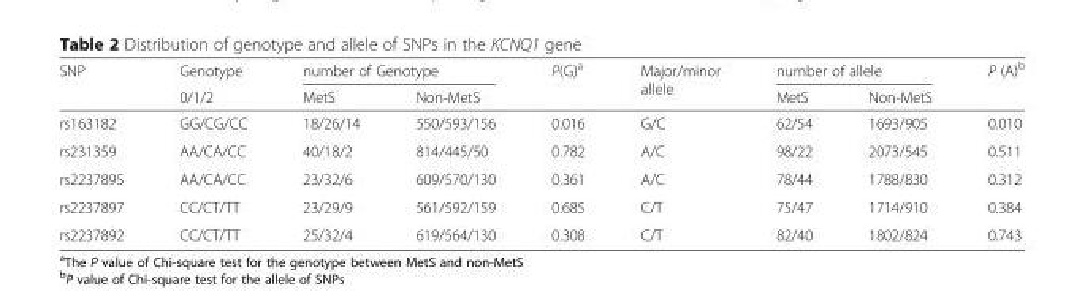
<table><thead><tr><td rowspan="2">SNP</td><td rowspan="2">Genotype 0/1/2</td><td colspan="2">number of Genotype</td><td rowspan="2">P(G)<sup>a</sup></td><td rowspan="2">Major/minor allele</td><td colspan="2">number of allele</td><td rowspan="2">P (A)<sup>b</sup></td></tr><tr><td>MetS</td><td>Non-MetS</td><td>MetS</td><td>Non-MetS</td></tr></thead><tbody><tr><td>rs163182</td><td>GG/CG/CC</td><td>18/26/14</td><td>550/593/156</td><td>0.016</td><td>G/C</td><td>62/54</td><td>1693/905</td><td>0.010</td></tr><tr><td>rs231359</td><td>AA/CA/CC</td><td>40/18/2</td><td>814/445/50</td><td>0.782</td><td>A/C</td><td>98/22</td><td>2073/545</td><td>0.511</td></tr><tr><td>rs2237895</td><td>AA/CA/CC</td><td>23/32/6</td><td>609/570/130</td><td>0.361</td><td>A/C</td><td>78/44</td><td>1788/830</td><td>0.312</td></tr><tr><td>rs2237897</td><td>CC/CT/TT</td><td>23/29/9</td><td>561/592/159</td><td>0.685</td><td>C/T</td><td>75/47</td><td>1714/910</td><td>0.384</td></tr><tr><td>rs2237892</td><td>CC/CT/TT</td><td>25/32/4</td><td>619/564/130</td><td>0.308</td><td>C/T</td><td>82/40</td><td>1802/824</td><td>0.743</td></tr></tbody></table>